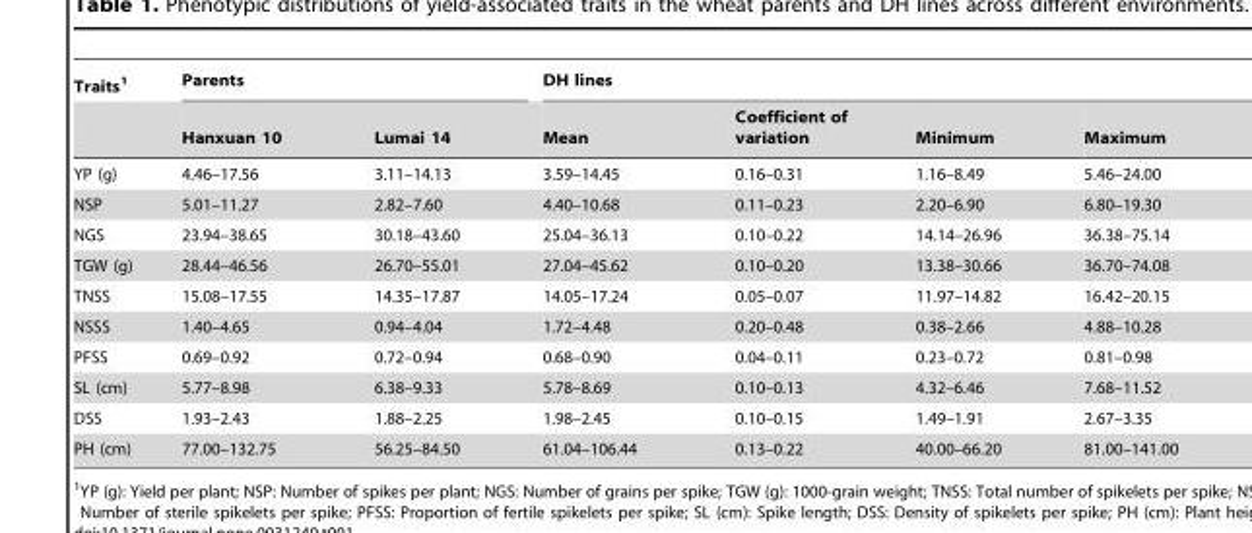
<table><thead><tr><td rowspan="2">Traits<sup>1</sup></td><td colspan="2">Parents</td><td colspan="4">DH lines</td></tr><tr><td>Hanxuan 10</td><td>Lumai 14</td><td>Mean</td><td>Coefficient of variation</td><td>Minimum</td><td>Maximum</td></tr></thead><tbody><tr><td>YP (g)</td><td>4.46–17.56</td><td>3.11–14.13</td><td>3.59–14.45</td><td>0.16–0.31</td><td>1.16–8.49</td><td>5.46–24.00</td></tr><tr><td>NSP</td><td>5.01–11.27</td><td>2.82–7.60</td><td>4.40–10.68</td><td>0.11–0.23</td><td>2.20–6.90</td><td>6.80–19.30</td></tr><tr><td>NGS</td><td>23.94–38.65</td><td>30.18–43.60</td><td>25.04–36.13</td><td>0.10–0.22</td><td>14.14–26.96</td><td>36.38–75.14</td></tr><tr><td>TGW (g)</td><td>28.44–46.56</td><td>26.70–55.01</td><td>27.04–45.62</td><td>0.10–0.20</td><td>13.38–30.66</td><td>36.70–74.08</td></tr><tr><td>TNSS</td><td>15.08–17.55</td><td>14.35–17.87</td><td>14.05–17.24</td><td>0.05–0.07</td><td>11.97–14.82</td><td>16.42–20.15</td></tr><tr><td>NSSS</td><td>1.40–4.65</td><td>0.94–4.04</td><td>1.72–4.48</td><td>0.20–0.48</td><td>0.38–2.66</td><td>4.88–10.28</td></tr><tr><td>PFSS</td><td>0.69–0.92</td><td>0.72–0.94</td><td>0.68–0.90</td><td>0.04–0.11</td><td>0.23–0.72</td><td>0.81–0.98</td></tr><tr><td>SL (cm)</td><td>5.77–8.98</td><td>6.38–9.33</td><td>5.78–8.69</td><td>0.10–0.13</td><td>4.32–6.46</td><td>7.68–11.52</td></tr><tr><td>DSS</td><td>1.93–2.43</td><td>1.88–2.25</td><td>1.98–2.45</td><td>0.10–0.15</td><td>1.49–1.91</td><td>2.67–3.35</td></tr><tr><td>PH (cm)</td><td>77.00–132.75</td><td>56.25–84.50</td><td>61.04–106.44</td><td>0.13–0.22</td><td>40.00–66.20</td><td>81.00–141.00</td></tr></tbody></table>